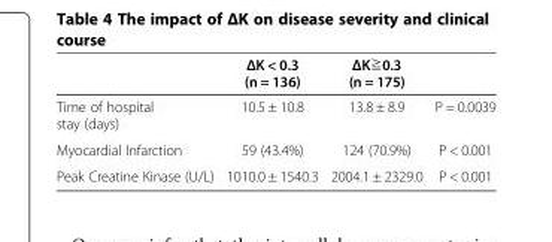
<table><thead><tr><td></td><td>ΔK &lt; 0.3 (n = 136)</td><td>ΔK≧0.3 (n = 175)</td><td></td></tr></thead><tbody><tr><td>Time of hospital stay (days)</td><td>10.5 ± 10.8</td><td>13.8 ± 8.9</td><td>P = 0.0039</td></tr><tr><td>Myocardial Infarction</td><td>59 (43.4%)</td><td>124 (70.9%)</td><td>P &lt; 0.001</td></tr><tr><td>Peak Creatine Kinase (U/L)</td><td>1010.0 ± 1540.3</td><td>2004.1 ± 2329.0</td><td>P &lt; 0.001</td></tr></tbody></table>